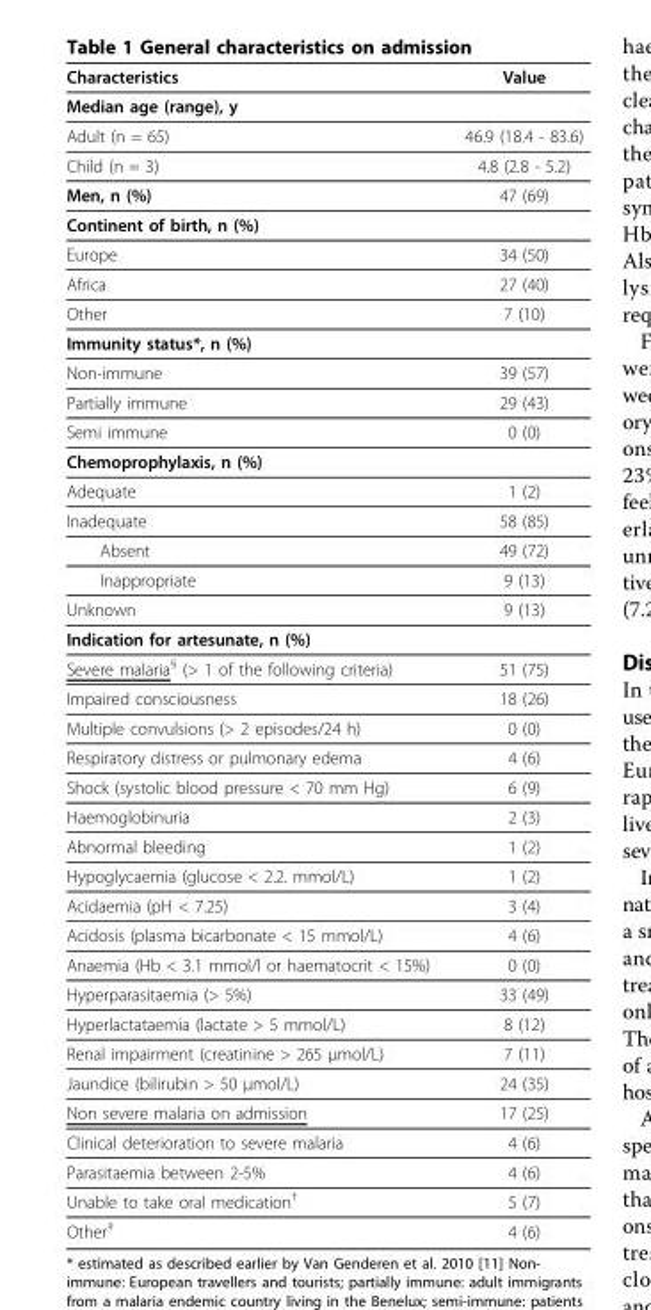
<table><thead><tr><td>Characteristics</td><td>Value</td></tr></thead><tbody><tr><td colspan="2">Median age (range), y</td></tr><tr><td>Adult (n = 65)</td><td>46.9 (18.4 - 83.6)</td></tr><tr><td>Child (n = 3)</td><td>4.8 (2.8 - 5.2)</td></tr><tr><td>Men, n (%)</td><td>47 (69)</td></tr><tr><td colspan="2">Continent of birth, n (%)</td></tr><tr><td>Europe</td><td>34 (50)</td></tr><tr><td>Africa</td><td>27 (40)</td></tr><tr><td>Other</td><td>7 (10)</td></tr><tr><td colspan="2">Immunity status*, n (%)</td></tr><tr><td>Non-immune</td><td>39 (57)</td></tr><tr><td>Partially immune</td><td>29 (43)</td></tr><tr><td>Semi immune</td><td>0 (0)</td></tr><tr><td colspan="2">Chemoprophylaxis, n (%)</td></tr><tr><td>Adequate</td><td>1 (2)</td></tr><tr><td>Inadequate</td><td>58 (85)</td></tr><tr><td>Absent</td><td>49 (72)</td></tr><tr><td>Inappropriate</td><td>9 (13)</td></tr><tr><td>Unknown</td><td>9 (13)</td></tr><tr><td colspan="2">Indication for artesunate, n (%)</td></tr><tr><td>Severe malaria<sup>§</sup> (&gt; 1 of the following criteria)</td><td>51 (75)</td></tr><tr><td>Impaired consciousness</td><td>18 (26)</td></tr><tr><td>Multiple convulsions (&gt; 2 episodes/24 h)</td><td>0 (0)</td></tr><tr><td>Respiratory distress or pulmonary edema</td><td>4 (6)</td></tr><tr><td>Shock (systolic blood pressure &lt; 70 mm Hg)</td><td>6 (9)</td></tr><tr><td>Haemoglobinuria</td><td>2 (3)</td></tr><tr><td>Abnormal bleeding</td><td>1 (2)</td></tr><tr><td>Hypoglycaemia (glucose &lt; 2.2. mmol/L)</td><td>1 (2)</td></tr><tr><td>Acidaemia (pH &lt; 7.25)</td><td>3 (4)</td></tr><tr><td>Acidosis (plasma bicarbonate &lt; 15 mmol/L)</td><td>4 (6)</td></tr><tr><td>Anaemia (Hb &lt; 3.1 mmol/l or haematocrit &lt; 15%)</td><td>0 (0)</td></tr><tr><td>Hyperparasitaemia (&gt; 5%)</td><td>33 (49)</td></tr><tr><td>Hyperlactataemia (lactate &gt; 5 mmol/L)</td><td>8 (12)</td></tr><tr><td>Renal impairment (creatinine &gt; 265 μmol/L)</td><td>7 (11)</td></tr><tr><td>Jaundice (bilirubin &gt; 50 μmol/L)</td><td>24 (35)</td></tr><tr><td>Non severe malaria on admission</td><td>17 (25)</td></tr><tr><td>Clinical deterioration to severe malaria</td><td>4 (6)</td></tr><tr><td>Parasitaemia between 2-5%</td><td>4 (6)</td></tr><tr><td>Unable to take oral medication<sup>†</sup></td><td>5 (7)</td></tr><tr><td>Other<sup>‡</sup></td><td>4 (6)</td></tr></tbody></table>